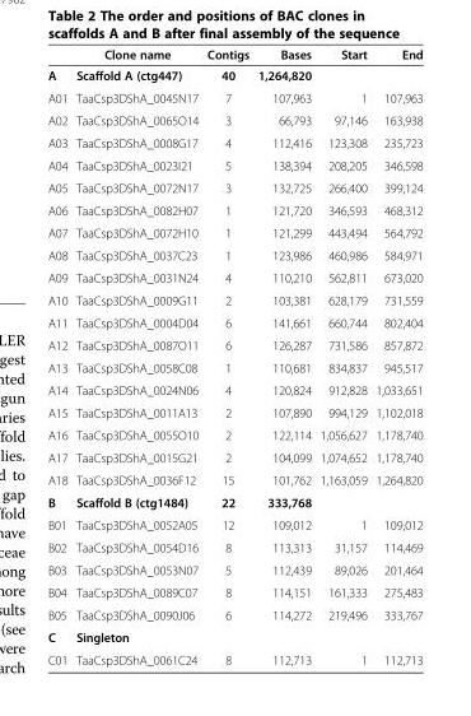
<table><thead><tr><td></td><td>Clone name</td><td>Contigs</td><td>Bases</td><td>Start</td><td>End</td></tr></thead><tbody><tr><td>A</td><td>Scaffold A (ctg447)</td><td>40</td><td>1,264,820</td><td></td><td></td></tr><tr><td>A01</td><td>TaaCsp3DShA_0045N17</td><td>7</td><td>107,963</td><td>1</td><td>107,963</td></tr><tr><td>A02</td><td>TaaCsp3DShA_0065O14</td><td>3</td><td>66,793</td><td>97,146</td><td>163,938</td></tr><tr><td>A03</td><td>TaaCsp3DShA_0008G17</td><td>4</td><td>112,416</td><td>123,308</td><td>235,723</td></tr><tr><td>A04</td><td>TaaCsp3DShA_0023I21</td><td>5</td><td>138,394</td><td>208,205</td><td>346,598</td></tr><tr><td>A05</td><td>TaaCsp3DShA_0072N17</td><td>3</td><td>132,725</td><td>266,400</td><td>399,124</td></tr><tr><td>A06</td><td>TaaCsp3DShA_0082H07</td><td>1</td><td>121,720</td><td>346,593</td><td>468,312</td></tr><tr><td>A07</td><td>TaaCsp3DShA_0072H10</td><td>1</td><td>121,299</td><td>443,494</td><td>564,792</td></tr><tr><td>A08</td><td>TaaCsp3DShA_0037C23</td><td>1</td><td>123,986</td><td>460,986</td><td>584,971</td></tr><tr><td>A09</td><td>TaaCsp3DShA_0031N24</td><td>4</td><td>110,210</td><td>562,811</td><td>673,020</td></tr><tr><td>A10</td><td>TaaCsp3DShA_0009G11</td><td>2</td><td>103,381</td><td>628,179</td><td>731,559</td></tr><tr><td>A11</td><td>TaaCsp3DShA_0004D04</td><td>6</td><td>141,661</td><td>660,744</td><td>802,404</td></tr><tr><td>A12</td><td>TaaCsp3DShA_0087O11</td><td>6</td><td>126,287</td><td>731,586</td><td>857,872</td></tr><tr><td>A13</td><td>TaaCsp3DShA_0058C08</td><td>1</td><td>110,681</td><td>834,837</td><td>945,517</td></tr><tr><td>A14</td><td>TaaCsp3DShA_0024N06</td><td>4</td><td>120,824</td><td>912,828</td><td>1,033,651</td></tr><tr><td>A15</td><td>TaaCsp3DShA_0011A13</td><td>2</td><td>107,890</td><td>994,129</td><td>1,102,018</td></tr><tr><td>A16</td><td>TaaCsp3DShA_0055O10</td><td>2</td><td>122,114</td><td>1,056,627</td><td>1,178,740</td></tr><tr><td>A17</td><td>TaaCsp3DShA_0015G21</td><td>2</td><td>104,099</td><td>1,074,652</td><td>1,178,740</td></tr><tr><td>A18</td><td>TaaCsp3DShA_0036F12</td><td>15</td><td>101,762</td><td>1,163,059</td><td>1,264,820</td></tr><tr><td>B</td><td>Scaffold B (ctg1484)</td><td>22</td><td>333,768</td><td></td><td></td></tr><tr><td>B01</td><td>TaaCsp3DShA_0052A05</td><td>12</td><td>109,012</td><td>1</td><td>109,012</td></tr><tr><td>B02</td><td>TaaCsp3DShA_0054D16</td><td>8</td><td>113,313</td><td>31,157</td><td>114,469</td></tr><tr><td>B03</td><td>TaaCsp3DShA_0053N07</td><td>5</td><td>112,439</td><td>89,026</td><td>201,464</td></tr><tr><td>B04</td><td>TaaCsp3DShA_0089C07</td><td>8</td><td>114,151</td><td>161,333</td><td>275,483</td></tr><tr><td>B05</td><td>TaaCsp3DShA_0090J06</td><td>6</td><td>114,272</td><td>219,496</td><td>333,767</td></tr><tr><td>C</td><td>Singleton</td><td></td><td></td><td></td><td></td></tr><tr><td>C01</td><td>TaaCsp3DShA_0061C24</td><td>8</td><td>112,713</td><td>1</td><td>112,713</td></tr></tbody></table>